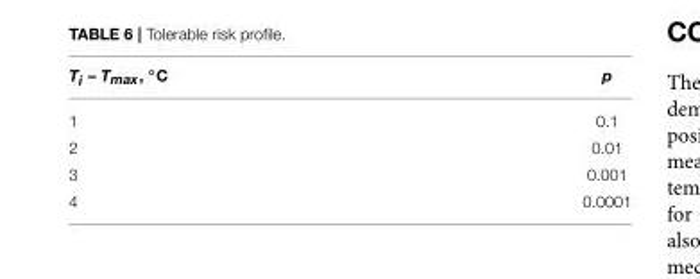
<table><thead><tr><td>Ti – Tmax, ◦C</td><td>p</td></tr></thead><tbody><tr><td>1</td><td>0.1</td></tr><tr><td>2</td><td>0.01</td></tr><tr><td>3</td><td>0.001</td></tr><tr><td>4</td><td>0.0001</td></tr></tbody></table>